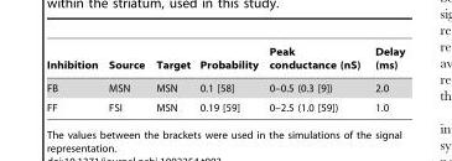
<table><thead><tr><td>Inhibition</td><td>Source</td><td>Target</td><td>Probability</td><td>Peak conductance (nS)</td><td>Delay (ms)</td></tr></thead><tbody><tr><td>FB</td><td>MSN</td><td>MSN</td><td>0.1 [58]</td><td>0–0.5 (0.3 [9])</td><td>2.0</td></tr><tr><td>FF</td><td>FSI</td><td>MSN</td><td>0.19 [59]</td><td>0–2.5 (1.0 [59])</td><td>1.0</td></tr></tbody></table>